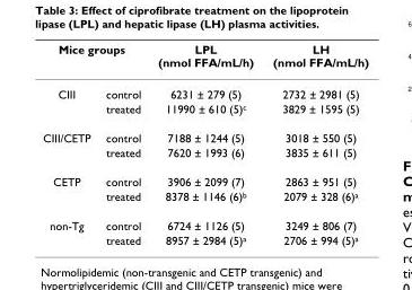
<table><thead><tr><td colspan="2">Mice groups</td><td rowspan="2">LPL (nmol FFA/mL/h) 6231 ± 279 (5)</td><td rowspan="2">LH (nmol FFA/mL/h) 2732 ± 2981 (5)</td></tr><tr><td>CIII</td><td>control</td></tr></thead><tbody><tr><td></td><td>treated</td><td>11990 ± 610 (5)<sup>c</sup></td><td>3829 ± 1595 (5)</td></tr><tr><td rowspan="2">CIII/CETP</td><td>control</td><td>7188 ± 1244 (5)</td><td>3018 ± 550 (5)</td></tr><tr><td>treated</td><td>7620 ± 1993 (6)</td><td>3835 ± 611 (5)</td></tr><tr><td rowspan="2">CETP</td><td>control</td><td>3906 ± 2099 (7)</td><td>2863 ± 951 (5)</td></tr><tr><td>treated</td><td>8378 ± 1146 (6)<sup>b</sup></td><td>2079 ± 328 (6)<sup>a</sup></td></tr><tr><td rowspan="2">non-Tg</td><td>control</td><td>6724 ± 1126 (5)</td><td>3249 ± 806 (7)</td></tr><tr><td>treated</td><td>8957 ± 2984 (5)<sup>a</sup></td><td>2706 ± 994 (5)<sup>a</sup></td></tr></tbody></table>